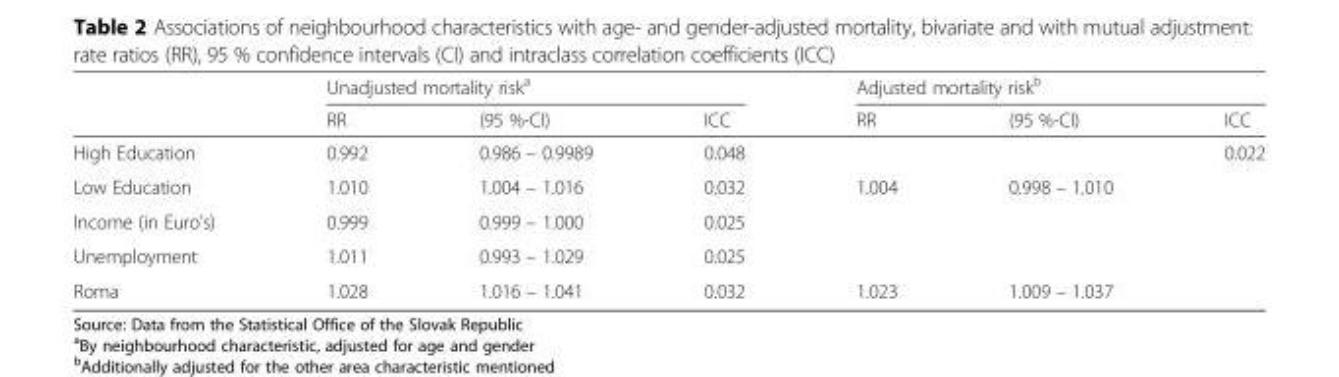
<table><thead><tr><td rowspan="2"></td><td colspan="3">Unadjusted mortality risk<sup>a</sup></td><td colspan="3">Adjusted mortality risk<sup>b</sup></td></tr><tr><td>RR</td><td>(95 %-CI)</td><td>ICC</td><td>RR</td><td>(95 %-CI)</td><td>ICC</td></tr></thead><tbody><tr><td>High Education</td><td>0.992</td><td>0.986 – 0.9989</td><td>0.048</td><td></td><td></td><td rowspan="5">0.022</td></tr><tr><td>Low Education</td><td>1.010</td><td>1.004 – 1.016</td><td>0.032</td><td>1.004</td><td>0.998 – 1.010</td></tr><tr><td>Income (in Euro’s)</td><td>0.999</td><td>0.999 – 1.000</td><td>0.025</td><td></td><td></td></tr><tr><td>Unemployment</td><td>1.011</td><td>0.993 – 1.029</td><td>0.025</td><td></td><td></td></tr><tr><td>Roma</td><td>1.028</td><td>1.016 – 1.041</td><td>0.032</td><td>1.023</td><td>1.009 – 1.037</td></tr></tbody></table>